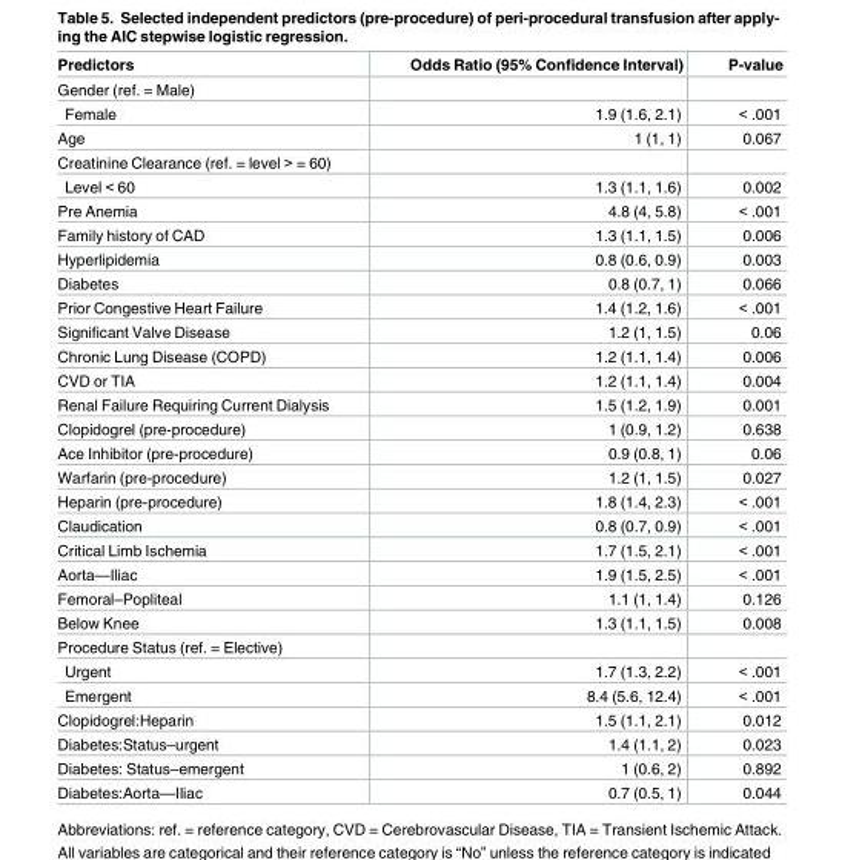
<table><thead><tr><td>Predictors</td><td>Odds Ratio (95% Confidence Interval)</td><td>P-value</td></tr></thead><tbody><tr><td colspan="3">Gender (ref. = Male)</td></tr><tr><td>Female</td><td>1.9 (1.6, 2.1)</td><td>&lt; .001</td></tr><tr><td>Age</td><td>1 (1, 1)</td><td>0.067</td></tr><tr><td colspan="3">Creatinine Clearance (ref. = level &gt; = 60)</td></tr><tr><td>Level &lt; 60</td><td>1.3 (1.1, 1.6)</td><td>0.002</td></tr><tr><td>Pre Anemia</td><td>4.8 (4, 5.8)</td><td>&lt; .001</td></tr><tr><td>Family history of CAD</td><td>1.3 (1.1, 1.5)</td><td>0.006</td></tr><tr><td>Hyperlipidemia</td><td>0.8 (0.6, 0.9)</td><td>0.003</td></tr><tr><td>Diabetes</td><td>0.8 (0.7, 1)</td><td>0.066</td></tr><tr><td>Prior Congestive Heart Failure</td><td>1.4 (1.2, 1.6)</td><td>&lt; .001</td></tr><tr><td>Significant Valve Disease</td><td>1.2 (1, 1.5)</td><td>0.06</td></tr><tr><td>Chronic Lung Disease (COPD)</td><td>1.2 (1.1, 1.4)</td><td>0.006</td></tr><tr><td>CVD or TIA</td><td>1.2 (1.1, 1.4)</td><td>0.004</td></tr><tr><td>Renal Failure Requiring Current Dialysis</td><td>1.5 (1.2, 1.9)</td><td>0.001</td></tr><tr><td>Clopidogrel (pre-procedure)</td><td>1 (0.9, 1.2)</td><td>0.638</td></tr><tr><td>Ace Inhibitor (pre-procedure)</td><td>0.9 (0.8, 1)</td><td>0.06</td></tr><tr><td>Warfarin (pre-procedure)</td><td>1.2 (1, 1.5)</td><td>0.027</td></tr><tr><td>Heparin (pre-procedure)</td><td>1.8 (1.4, 2.3)</td><td>&lt; .001</td></tr><tr><td>Claudication</td><td>0.8 (0.7, 0.9)</td><td>&lt; .001</td></tr><tr><td>Critical Limb Ischemia</td><td>1.7 (1.5, 2.1)</td><td>&lt; .001</td></tr><tr><td>Aorta—Iliac</td><td>1.9 (1.5, 2.5)</td><td>&lt; .001</td></tr><tr><td>Femoral–Popliteal</td><td>1.1 (1, 1.4)</td><td>0.126</td></tr><tr><td>Below Knee</td><td>1.3 (1.1, 1.5)</td><td>0.008</td></tr><tr><td colspan="3">Procedure Status (ref. = Elective)</td></tr><tr><td>Urgent</td><td>1.7 (1.3, 2.2)</td><td>&lt; .001</td></tr><tr><td>Emergent</td><td>8.4 (5.6, 12.4)</td><td>&lt; .001</td></tr><tr><td>Clopidogrel:Heparin</td><td>1.5 (1.1, 2.1)</td><td>0.012</td></tr><tr><td>Diabetes:Status–urgent</td><td>1.4 (1.1, 2)</td><td>0.023</td></tr><tr><td>Diabetes: Status–emergent</td><td>1 (0.6, 2)</td><td>0.892</td></tr><tr><td>Diabetes:Aorta—Iliac</td><td>0.7 (0.5, 1)</td><td>0.044</td></tr></tbody></table>